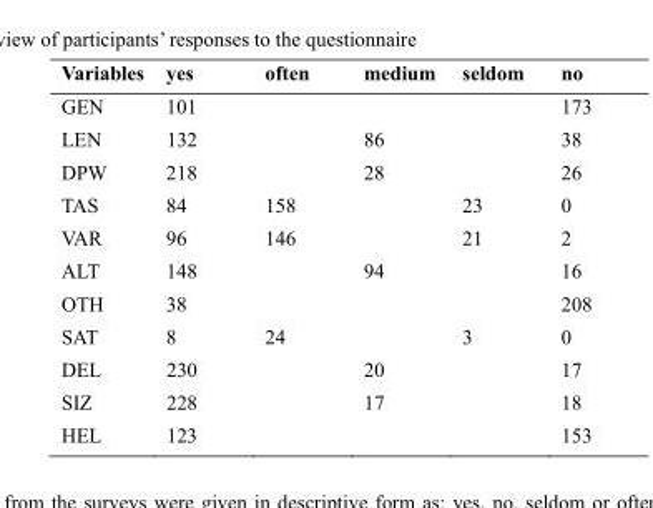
<table><thead><tr><td>Variables</td><td>yes</td><td>often</td><td>medium</td><td>seldom</td><td>no</td></tr></thead><tbody><tr><td>GEN</td><td>101</td><td></td><td></td><td></td><td>173</td></tr><tr><td>LEN</td><td>132</td><td></td><td>86</td><td></td><td>38</td></tr><tr><td>DPW</td><td>218</td><td></td><td>28</td><td></td><td>26</td></tr><tr><td>TAS</td><td>84</td><td>158</td><td></td><td>23</td><td>0</td></tr><tr><td>VAR</td><td>96</td><td>146</td><td></td><td>21</td><td>2</td></tr><tr><td>ALT</td><td>148</td><td></td><td>94</td><td></td><td>16</td></tr><tr><td>OTH</td><td>38</td><td></td><td></td><td></td><td>208</td></tr><tr><td>SAT</td><td>8</td><td>24</td><td></td><td>3</td><td>0</td></tr><tr><td>DEL</td><td>230</td><td></td><td>20</td><td></td><td>17</td></tr><tr><td>SIZ</td><td>228</td><td></td><td>17</td><td></td><td>18</td></tr><tr><td>HEL</td><td>123</td><td></td><td></td><td></td><td>153</td></tr></tbody></table>